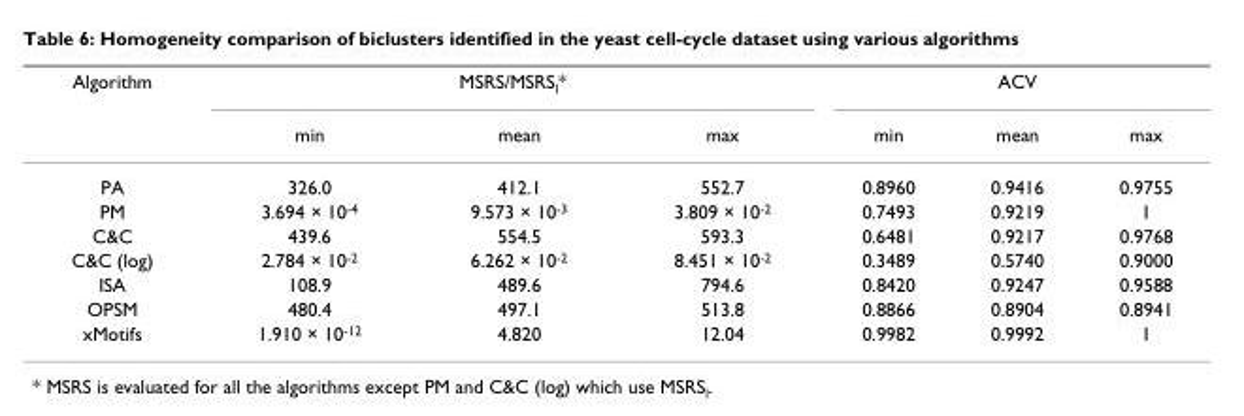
<table><thead><tr><td rowspan="2">Algorithm</td><td colspan="3">MSRS/MSRS<sub>l</sub>*</td><td colspan="3">ACV</td></tr><tr><td>min</td><td>mean</td><td>max</td><td>min</td><td>mean</td><td>max</td></tr></thead><tbody><tr><td>PA</td><td>326.0</td><td>412.1</td><td>552.7</td><td>0.8960</td><td>0.9416</td><td>0.9755</td></tr><tr><td>PM</td><td>3.694 × 10<sup>-4</sup></td><td>9.573 × 10<sup>-3</sup></td><td>3.809 × 10<sup>-2</sup></td><td>0.7493</td><td>0.9219</td><td>1</td></tr><tr><td>C&amp;C</td><td>439.6</td><td>554.5</td><td>593.3</td><td>0.6481</td><td>0.9217</td><td>0.9768</td></tr><tr><td>C&amp;C (log)</td><td>2.784 × 10<sup>-2</sup></td><td>6.262 × 10<sup>-2</sup></td><td>8.451 × 10<sup>-2</sup></td><td>0.3489</td><td>0.5740</td><td>0.9000</td></tr><tr><td>ISA</td><td>108.9</td><td>489.6</td><td>794.6</td><td>0.8420</td><td>0.9247</td><td>0.9588</td></tr><tr><td>OPSM</td><td>480.4</td><td>497.1</td><td>513.8</td><td>0.8866</td><td>0.8904</td><td>0.8941</td></tr><tr><td>xMotifs</td><td>1.910 × 10<sup>-12</sup></td><td>4.820</td><td>12.04</td><td>0.9982</td><td>0.9992</td><td>1</td></tr></tbody></table>